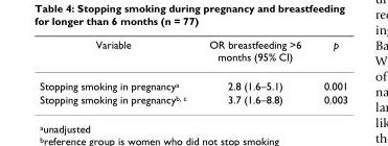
<table><thead><tr><td>Variable</td><td>OR breastfeeding &gt;6 months (95% CI)</td><td>p</td></tr></thead><tbody><tr><td>Stopping smoking in pregnancya</td><td>2.8 (1.6–5.1)</td><td>0.001</td></tr><tr><td>Stopping smoking in pregnancyb, c</td><td>3.7 (1.6–8.8)</td><td>0.003</td></tr></tbody></table>